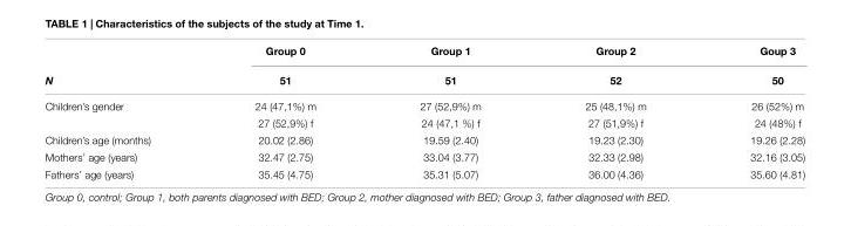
<table><thead><tr><td rowspan="2">N</td><td rowspan="2">Group 0 51</td><td rowspan="2">Group 1 51</td><td rowspan="2">Group 2 52</td><td rowspan="2">Goup 3 50</td></tr><tr></tr></thead><tbody><tr><td rowspan="2">Children’s gender</td><td>24 (47,1%) m</td><td>27 (52,9%) m</td><td>25 (48,1%) m</td><td>26 (52%) m</td></tr><tr><td>27 (52,9%) f</td><td>24 (47,1 %) f</td><td>27 (51,9%) f</td><td>24 (48%) f</td></tr><tr><td>Children’s age (months)</td><td>20.02 (2.86)</td><td>19.59 (2.40)</td><td>19.23 (2.30)</td><td>19.26 (2.28)</td></tr><tr><td>Mothers’ age (years)</td><td>32.47 (2.75)</td><td>33.04 (3.77)</td><td>32.33 (2.98)</td><td>32.16 (3.05)</td></tr><tr><td>Fathers’ age (years)</td><td>35.45 (4.75)</td><td>35.31 (5.07)</td><td>36.00 (4.36)</td><td>35.60 (4.81)</td></tr></tbody></table>